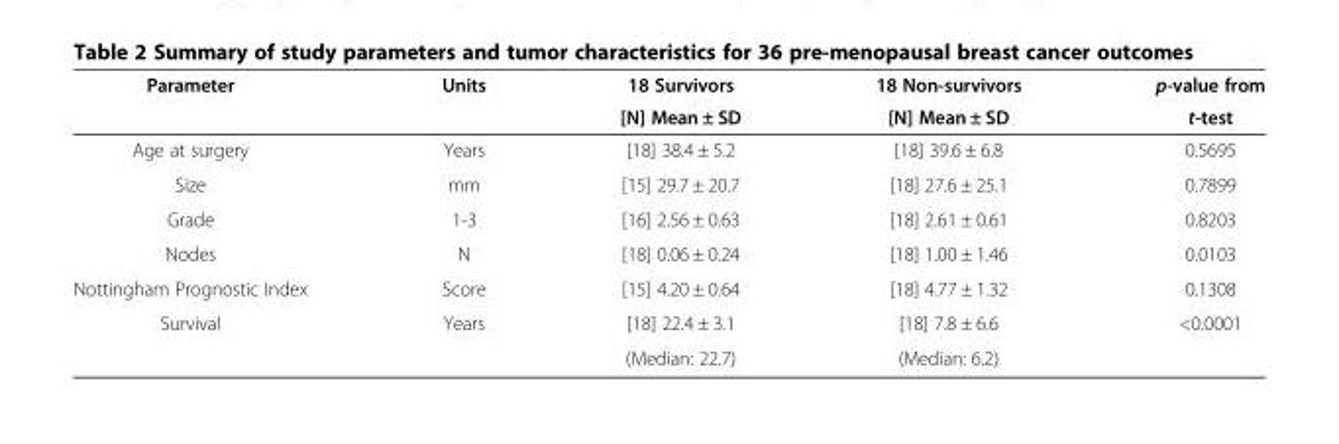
<table><thead><tr><td rowspan="2">Parameter</td><td rowspan="2">Units</td><td rowspan="2">18 Survivors [N] Mean ± SD</td><td rowspan="2">18 Non-survivors [N] Mean ± SD</td><td rowspan="2">p-value from t-test</td></tr><tr></tr></thead><tbody><tr><td>Age at surgery</td><td>Years</td><td>[18] 38.4 ± 5.2</td><td>[18] 39.6 ± 6.8</td><td>0.5695</td></tr><tr><td>Size</td><td>mm</td><td>[15] 29.7 ± 20.7</td><td>[18] 27.6 ± 25.1</td><td>0.7899</td></tr><tr><td>Grade</td><td>1-3</td><td>[16] 2.56 ± 0.63</td><td>[18] 2.61 ± 0.61</td><td>0.8203</td></tr><tr><td>Nodes</td><td>N</td><td>[18] 0.06 ± 0.24</td><td>[18] 1.00 ± 1.46</td><td>0.0103</td></tr><tr><td>Nottingham Prognostic Index</td><td>Score</td><td>[15] 4.20 ± 0.64</td><td>[18] 4.77 ± 1.32</td><td>0.1308</td></tr><tr><td rowspan="2">Survival</td><td>Years</td><td>[18] 22.4 ± 3.1</td><td>[18] 7.8 ± 6.6</td><td>&lt;0.0001</td></tr><tr><td></td><td>(Median: 22.7)</td><td>(Median: 6.2)</td><td></td></tr></tbody></table>